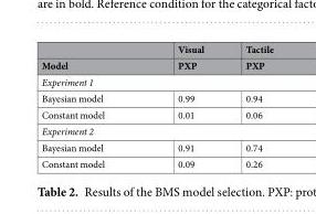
<table><thead><tr><td rowspan="2">Model</td><td rowspan="2">Visual PXP</td><td rowspan="2">Tactile PXP</td></tr><tr></tr></thead><tbody><tr><td colspan="3">Experiment 1</td></tr><tr><td>Bayesian model</td><td>0.99</td><td>0.94</td></tr><tr><td>Constant model</td><td>0.01</td><td>0.06</td></tr><tr><td colspan="3">Experiment 2</td></tr><tr><td>Bayesian model</td><td>0.91</td><td>0.74</td></tr><tr><td>Constant model</td><td>0.09</td><td>0.26</td></tr></tbody></table>